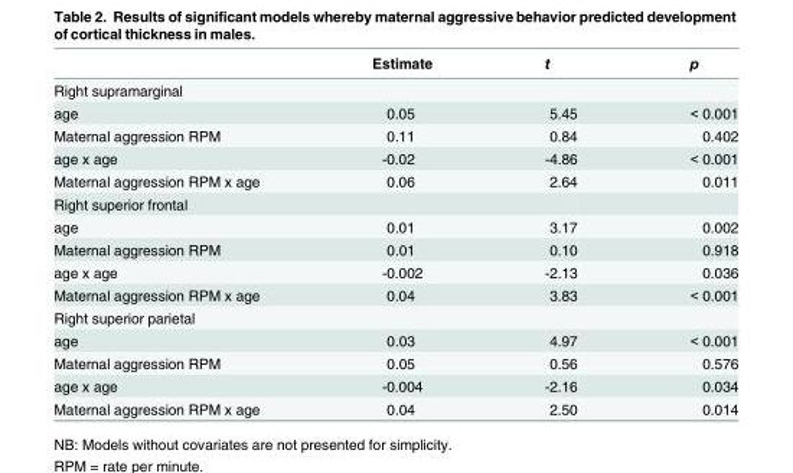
<table><thead><tr><td></td><td>Estimate</td><td>t</td><td>p</td></tr></thead><tbody><tr><td colspan="4">Right supramarginal</td></tr><tr><td>age</td><td>0.05</td><td>5.45</td><td>&lt; 0.001</td></tr><tr><td>Maternal aggression RPM</td><td>0.11</td><td>0.84</td><td>0.402</td></tr><tr><td>age x age</td><td>-0.02</td><td>-4.86</td><td>&lt; 0.001</td></tr><tr><td>Maternal aggression RPM x age</td><td>0.06</td><td>2.64</td><td>0.011</td></tr><tr><td colspan="4">Right superior frontal</td></tr><tr><td>age</td><td>0.01</td><td>3.17</td><td>0.002</td></tr><tr><td>Maternal aggression RPM</td><td>0.01</td><td>0.10</td><td>0.918</td></tr><tr><td>age x age</td><td>-0.002</td><td>-2.13</td><td>0.036</td></tr><tr><td>Maternal aggression RPM x age</td><td>0.04</td><td>3.83</td><td>&lt; 0.001</td></tr><tr><td colspan="4">Right superior parietal</td></tr><tr><td>age</td><td>0.03</td><td>4.97</td><td>&lt; 0.001</td></tr><tr><td>Maternal aggression RPM</td><td>0.05</td><td>0.56</td><td>0.576</td></tr><tr><td>age x age</td><td>-0.004</td><td>-2.16</td><td>0.034</td></tr><tr><td>Maternal aggression RPM x age</td><td>0.04</td><td>2.50</td><td>0.014</td></tr></tbody></table>